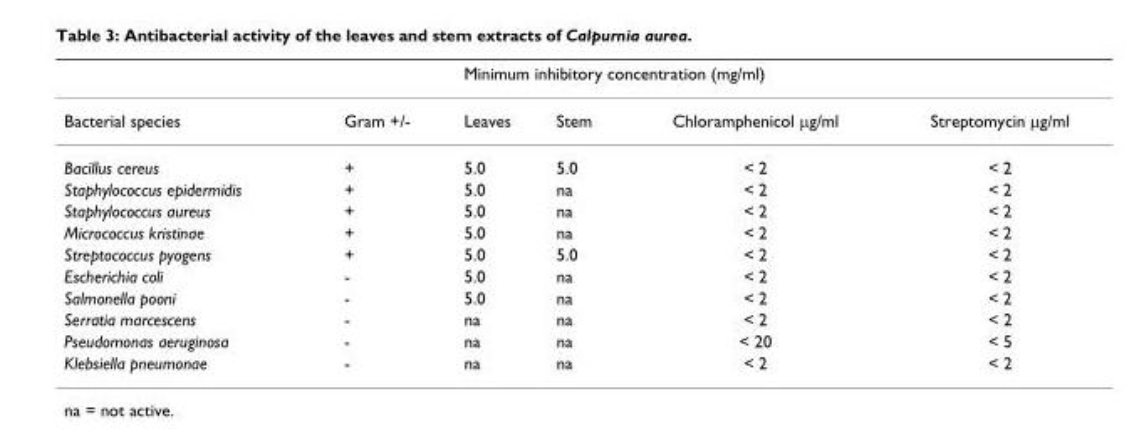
<table><thead><tr><td rowspan="2">Bacterial species</td><td rowspan="2">Gram +/-</td><td colspan="4">Minimum inhibitory concentration (mg/ml)</td></tr><tr><td>Leaves</td><td>Stem</td><td>Chloramphenicol μg/ml</td><td>Streptomycin μg/ml</td></tr></thead><tbody><tr><td>Bacillus cereus</td><td>+</td><td>5.0</td><td>5.0</td><td>&lt; 2</td><td>&lt; 2</td></tr><tr><td>Staphylococcus epidermidis</td><td>+</td><td>5.0</td><td>na</td><td>&lt; 2</td><td>&lt; 2</td></tr><tr><td>Staphylococcus aureus</td><td>+</td><td>5.0</td><td>na</td><td>&lt; 2</td><td>&lt; 2</td></tr><tr><td>Micrococcus kristinae</td><td>+</td><td>5.0</td><td>na</td><td>&lt; 2</td><td>&lt; 2</td></tr><tr><td>Streptococcus pyogens</td><td>+</td><td>5.0</td><td>5.0</td><td>&lt; 2</td><td>&lt; 2</td></tr><tr><td>Escherichia coli</td><td>-</td><td>5.0</td><td>na</td><td>&lt; 2</td><td>&lt; 2</td></tr><tr><td>Salmonella pooni</td><td>-</td><td>5.0</td><td>na</td><td>&lt; 2</td><td>&lt; 2</td></tr><tr><td>Serratia marcescens</td><td>-</td><td>na</td><td>na</td><td>&lt; 2</td><td>&lt; 2</td></tr><tr><td>Pseudomonas aeruginosa</td><td>-</td><td>na</td><td>na</td><td>&lt; 20</td><td>&lt; 5</td></tr><tr><td>Klebsiella pneumonae</td><td>-</td><td>na</td><td>na</td><td>&lt; 2</td><td>&lt; 2</td></tr></tbody></table>